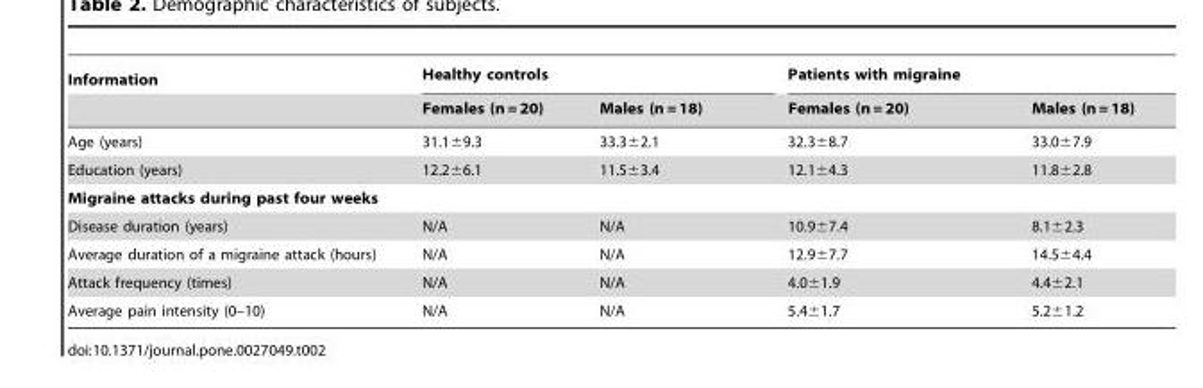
<table><thead><tr><td rowspan="2">Information</td><td colspan="2">Healthy controls</td><td colspan="2">Patients with migraine</td></tr><tr><td>Females (n = 20)</td><td>Males (n = 18)</td><td>Females (n = 20)</td><td>Males (n = 18)</td></tr></thead><tbody><tr><td>Age (years)</td><td>31.1±9.3</td><td>33.3±2.1</td><td>32.3±8.7</td><td>33.0±7.9</td></tr><tr><td>Education (years)</td><td>12.2±6.1</td><td>11.5±3.4</td><td>12.1±4.3</td><td>11.8±2.8</td></tr><tr><td colspan="5">Migraine attacks during past four weeks</td></tr><tr><td>Disease duration (years)</td><td>N/A</td><td>N/A</td><td>10.9±7.4</td><td>8.1±2.3</td></tr><tr><td>Average duration of a migraine attack (hours)</td><td>N/A</td><td>N/A</td><td>12.9±7.7</td><td>14.5±4.4</td></tr><tr><td>Attack frequency (times)</td><td>N/A</td><td>N/A</td><td>4.0±1.9</td><td>4.4±2.1</td></tr><tr><td>Average pain intensity (0–10)</td><td>N/A</td><td>N/A</td><td>5.4±1.7</td><td>5.2±1.2</td></tr></tbody></table>